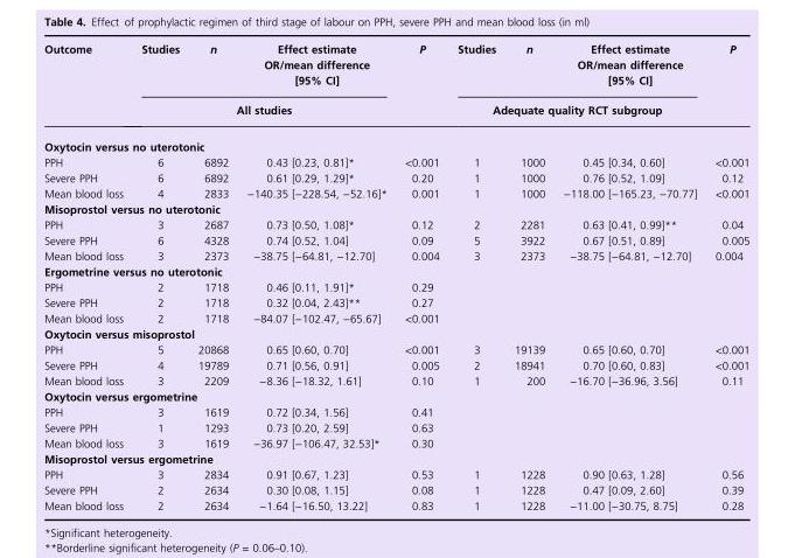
<table><thead><tr><td rowspan="2">Outcome</td><td>Studies</td><td>n</td><td>Effect estimate OR/mean difference [95% CI]</td><td rowspan="2">P</td><td>Studies</td><td>n</td><td>Effect estimate OR/mean difference [95% CI]</td><td rowspan="2">P</td></tr><tr><td colspan="3">All studies</td><td colspan="3">Adequate quality RCT subgroup</td></tr></thead><tbody><tr><td colspan="9">Oxytocin versus no uterotonic</td></tr><tr><td>PPH</td><td>6</td><td>6892</td><td>0.43 [0.23, 0.81]*</td><td>&lt;0.001</td><td>1</td><td>1000</td><td>0.45 [0.34, 0.60]</td><td>&lt;0.001</td></tr><tr><td>Severe PPH</td><td>6</td><td>6892</td><td>0.61 [0.29, 1.29]*</td><td>0.20</td><td>1</td><td>1000</td><td>0.76 [0.52, 1.09]</td><td>0.12</td></tr><tr><td>Mean blood loss</td><td>4</td><td>2833</td><td>−140.35 [−228.54, −52.16]*</td><td>0.001</td><td>1</td><td>1000</td><td>−118.00 [−165.23, −70.77]</td><td>&lt;0.001</td></tr><tr><td colspan="9">Misoprostol versus no uterotonic</td></tr><tr><td>PPH</td><td>3</td><td>2687</td><td>0.73 [0.50, 1.08]*</td><td>0.12</td><td>2</td><td>2281</td><td>0.63 [0.41, 0.99]**</td><td>0.04</td></tr><tr><td>Severe PPH</td><td>6</td><td>4328</td><td>0.74 [0.52, 1.04]</td><td>0.09</td><td>5</td><td>3922</td><td>0.67 [0.51, 0.89]</td><td>0.005</td></tr><tr><td>Mean blood loss</td><td>3</td><td>2373</td><td>−38.75 [−64.81, −12.70]</td><td>0.004</td><td>3</td><td>2373</td><td>−38.75 [−64.81, −12.70]</td><td>0.004</td></tr><tr><td colspan="9">Ergometrine versus no uterotonic</td></tr><tr><td>PPH</td><td>2</td><td>1718</td><td>0.46 [0.11, 1.91]*</td><td>0.29</td><td></td><td></td><td></td><td></td></tr><tr><td>Severe PPH</td><td>2</td><td>1718</td><td>0.32 [0.04, 2.43]**</td><td>0.27</td><td></td><td></td><td></td><td></td></tr><tr><td>Mean blood loss</td><td>2</td><td>1718</td><td>−84.07 [−102.47, −65.67]</td><td>&lt;0.001</td><td></td><td></td><td></td><td></td></tr><tr><td colspan="9">Oxytocin versus misoprostol</td></tr><tr><td>PPH</td><td>5</td><td>20868</td><td>0.65 [0.60, 0.70]</td><td>&lt;0.001</td><td>3</td><td>19139</td><td>0.65 [0.60, 0.70]</td><td>&lt;0.001</td></tr><tr><td>Severe PPH</td><td>4</td><td>19789</td><td>0.71 [0.56, 0.91]</td><td>0.005</td><td>2</td><td>18941</td><td>0.70 [0.60, 0.83]</td><td>&lt;0.001</td></tr><tr><td>Mean blood loss</td><td>3</td><td>2209</td><td>−8.36 [−18.32, 1.61]</td><td>0.10</td><td>1</td><td>200</td><td>−16.70 [−36.96, 3.56]</td><td>0.11</td></tr><tr><td colspan="9">Oxytocin versus ergometrine</td></tr><tr><td>PPH</td><td>3</td><td>1619</td><td>0.72 [0.34, 1.56]</td><td>0.41</td><td></td><td></td><td></td><td></td></tr><tr><td>Severe PPH</td><td>1</td><td>1293</td><td>0.73 [0.20, 2.59]</td><td>0.63</td><td></td><td></td><td></td><td></td></tr><tr><td>Mean blood loss</td><td>3</td><td>1619</td><td>−36.97 [−106.47, 32.53]*</td><td>0.30</td><td></td><td></td><td></td><td></td></tr><tr><td colspan="9">Misoprostol versus ergometrine</td></tr><tr><td>PPH</td><td>3</td><td>2834</td><td>0.91 [0.67, 1.23]</td><td>0.53</td><td>1</td><td>1228</td><td>0.90 [0.63, 1.28]</td><td>0.56</td></tr><tr><td>Severe PPH</td><td>2</td><td>2634</td><td>0.30 [0.08, 1.15]</td><td>0.08</td><td>1</td><td>1228</td><td>0.47 [0.09, 2.60]</td><td>0.39</td></tr><tr><td>Mean blood loss</td><td>2</td><td>2634</td><td>−1.64 [−16.50, 13.22]</td><td>0.83</td><td>1</td><td>1228</td><td>−11.00 [−30.75, 8.75]</td><td>0.28</td></tr></tbody></table>